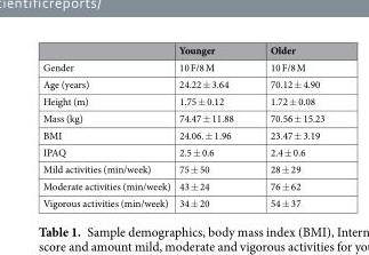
<table><thead><tr><td></td><td>Younger</td><td>Older</td></tr></thead><tbody><tr><td>Gender</td><td>10 F/8 M</td><td>10 F/8 M</td></tr><tr><td>Age (years)</td><td>24.22 ± 3.64</td><td>70.12 ± 4.90</td></tr><tr><td>Height (m)</td><td>1.75 ± 0.12</td><td>1.72 ± 0.08</td></tr><tr><td>Mass (kg)</td><td>74.47 ± 11.88</td><td>70.56 ± 15.23</td></tr><tr><td>BMI</td><td>24.06. ± 1.96</td><td>23.47 ± 3.19</td></tr><tr><td>IPAQ</td><td>2.5 ± 0.6</td><td>2.4 ± 0.6</td></tr><tr><td>Mild activities (min/week)</td><td>75 ± 50</td><td>28 ± 29</td></tr><tr><td>Moderate activities (min/week)</td><td>43 ± 24</td><td>76 ± 62</td></tr><tr><td>Vigorous activities (min/week)</td><td>34 ± 20</td><td>54 ± 37</td></tr></tbody></table>